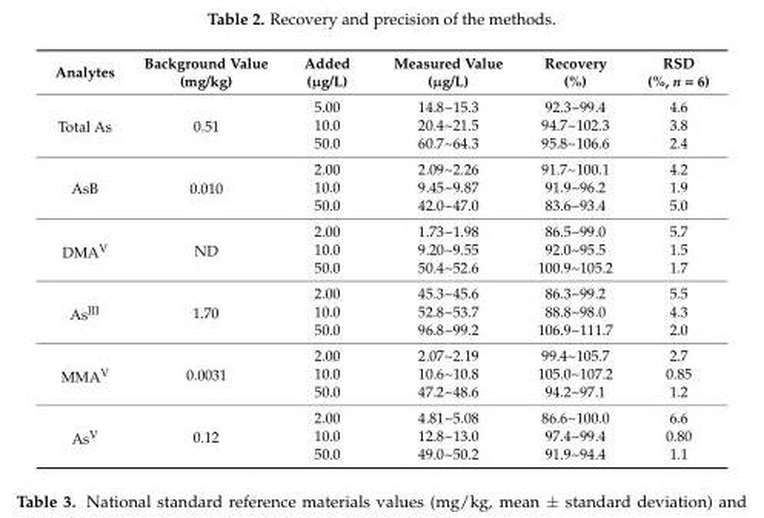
<table><thead><tr><td>Analytes</td><td>Background Value (mg/kg)</td><td>Added (µg/L)</td><td>Measured Value (µg/L)</td><td>Recovery (%)</td><td>RSD (%, n = 6)</td></tr></thead><tbody><tr><td rowspan="3">Total As</td><td rowspan="3">0.51</td><td>5.00</td><td>14.8~15.3</td><td>92.3~99.4</td><td>4.6</td></tr><tr><td>10.0</td><td>20.4~21.5</td><td>94.7~102.3</td><td>3.8</td></tr><tr><td>50.0</td><td>60.7~64.3</td><td>95.8~106.6</td><td>2.4</td></tr><tr><td rowspan="3">AsB</td><td rowspan="3">0.010</td><td>2.00</td><td>2.09~2.26</td><td>91.7~100.1</td><td>4.2</td></tr><tr><td>10.0</td><td>9.45~9.87</td><td>91.9~96.2</td><td>1.9</td></tr><tr><td>50.0</td><td>42.0~47.0</td><td>83.6~93.4</td><td>5.0</td></tr><tr><td rowspan="3">DMA<sup>V</sup></td><td rowspan="3">ND</td><td>2.00</td><td>1.73~1.98</td><td>86.5~99.0</td><td>5.7</td></tr><tr><td>10.0</td><td>9.20~9.55</td><td>92.0~95.5</td><td>1.5</td></tr><tr><td>50.0</td><td>50.4~52.6</td><td>100.9~105.2</td><td>1.7</td></tr><tr><td rowspan="3">AsIII</td><td rowspan="3">1.70</td><td>2.00</td><td>45.3~45.6</td><td>86.3~99.2</td><td>5.5</td></tr><tr><td>10.0</td><td>52.8~53.7</td><td>88.8~98.0</td><td>4.3</td></tr><tr><td>50.0</td><td>96.8~99.2</td><td>106.9~111.7</td><td>2.0</td></tr><tr><td rowspan="3">MMA<sup>V</sup></td><td rowspan="3">0.0031</td><td>2.00</td><td>2.07~2.19</td><td>99.4~105.7</td><td>2.7</td></tr><tr><td>10.0</td><td>10.6~10.8</td><td>105.0~107.2</td><td>0.85</td></tr><tr><td>50.0</td><td>47.2~48.6</td><td>94.2~97.1</td><td>1.2</td></tr><tr><td rowspan="3">As<sup>V</sup></td><td rowspan="3">0.12</td><td>2.00</td><td>4.81~5.08</td><td>86.6~100.0</td><td>6.6</td></tr><tr><td>10.0</td><td>12.8~13.0</td><td>97.4~99.4</td><td>0.80</td></tr><tr><td>50.0</td><td>49.0~50.2</td><td>91.9~94.4</td><td>1.1</td></tr></tbody></table>